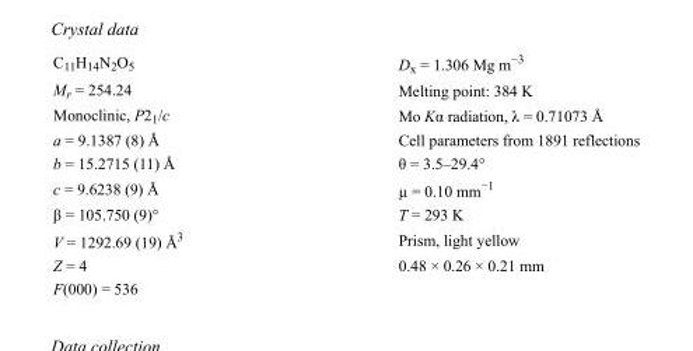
<table><tbody><tr><td>C<sub>11</sub>H<sub>14</sub>N<sub>2</sub>O<sub>5</sub></td><td>D<sub>x</sub> = 1.306 Mg m<sup>−3</sup></td></tr><tr><td>M<sub>r</sub> = 254.24</td><td>Melting point: 384 K</td></tr><tr><td>Monoclinic, P2<sub>1</sub>/c</td><td>Mo Kα radiation, λ = 0.71073 Å</td></tr><tr><td>a = 9.1387 (8) Å</td><td>Cell parameters from 1891 reflections</td></tr><tr><td>b = 15.2715 (11) Å</td><td>θ = 3.5–29.4°</td></tr><tr><td>c = 9.6238 (9) Å</td><td>µ = 0.10 mm<sup>−1</sup></td></tr><tr><td>β = 105.750 (9)°</td><td>T = 293 K</td></tr><tr><td>V = 1292.69 (19) Å<sup>3</sup></td><td>Prism, light yellow</td></tr><tr><td>Z = 4</td><td>0.48 × 0.26 × 0.21 mm</td></tr><tr><td>F(000) = 536</td><td></td></tr></tbody></table>